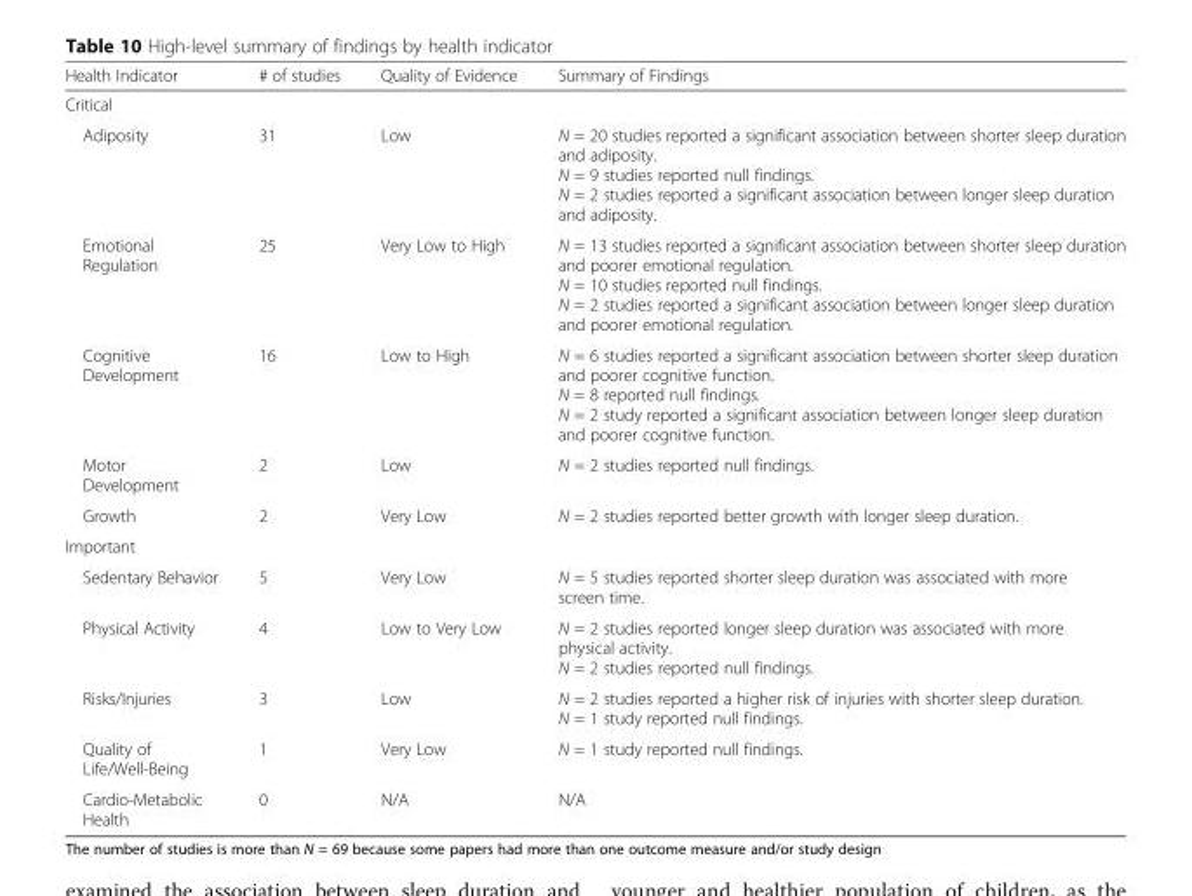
<table><thead><tr><td>Health Indicator</td><td># of studies</td><td>Quality of Evidence</td><td>Summary of Findings</td></tr></thead><tbody><tr><td colspan="4">Critical</td></tr><tr><td>Adiposity</td><td>31</td><td>Low</td><td>N = 20 studies reported a significant association between shorter sleep duration and adiposity. N = 9 studies reported null findings. N = 2 studies reported a significant association between longer sleep duration and adiposity.</td></tr><tr><td>Emotional Regulation</td><td>25</td><td>Very Low to High</td><td>N = 13 studies reported a significant association between shorter sleep duration and poorer emotional regulation. N = 10 studies reported null findings. N = 2 studies reported a significant association between longer sleep duration and poorer emotional regulation.</td></tr><tr><td>Cognitive Development</td><td>16</td><td>Low to High</td><td>N = 6 studies reported a significant association between shorter sleep duration and poorer cognitive function. N = 8 reported null findings. N = 2 study reported a significant association between longer sleep duration and poorer cognitive function.</td></tr><tr><td>Motor Development</td><td>2</td><td>Low</td><td>N = 2 studies reported null findings.</td></tr><tr><td>Growth</td><td>2</td><td>Very Low</td><td>N = 2 studies reported better growth with longer sleep duration.</td></tr><tr><td colspan="4">Important</td></tr><tr><td>Sedentary Behavior</td><td>5</td><td>Very Low</td><td>N = 5 studies reported shorter sleep duration was associated with more screen time.</td></tr><tr><td>Physical Activity</td><td>4</td><td>Low to Very Low</td><td>N = 2 studies reported longer sleep duration was associated with more physical activity. N = 2 studies reported null findings.</td></tr><tr><td>Risks/Injuries</td><td>3</td><td>Low</td><td>N = 2 studies reported a higher risk of injuries with shorter sleep duration. N = 1 study reported null findings.</td></tr><tr><td>Quality of Life/Well-Being</td><td>1</td><td>Very Low</td><td>N = 1 study reported null findings.</td></tr><tr><td>Cardio-Metabolic Health</td><td>0</td><td>N/A</td><td>N/A</td></tr></tbody></table>